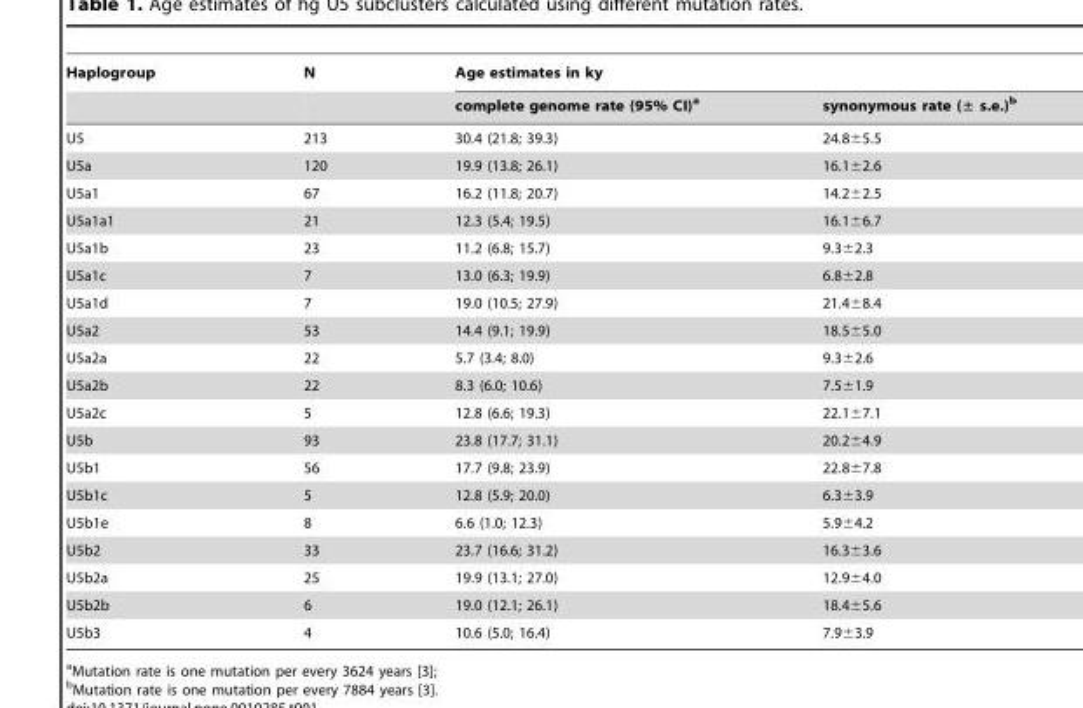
<table><thead><tr><td rowspan="2">Haplogroup</td><td rowspan="2">N</td><td colspan="2">Age estimates in ky</td></tr><tr><td>complete genome rate (95% CI)<sup>a</sup></td><td>synonymous rate (± s.e.)<sup>b</sup></td></tr></thead><tbody><tr><td>U5</td><td>213</td><td>30.4 (21.8; 39.3)</td><td>24.8±5.5</td></tr><tr><td>U5a</td><td>120</td><td>19.9 (13.8; 26.1)</td><td>16.1±2.6</td></tr><tr><td>U5a1</td><td>67</td><td>16.2 (11.8; 20.7)</td><td>14.2±2.5</td></tr><tr><td>U5a1a1</td><td>21</td><td>12.3 (5.4; 19.5)</td><td>16.1±6.7</td></tr><tr><td>U5a1b</td><td>23</td><td>11.2 (6.8; 15.7)</td><td>9.3±2.3</td></tr><tr><td>U5a1c</td><td>7</td><td>13.0 (6.3; 19.9)</td><td>6.8±2.8</td></tr><tr><td>U5a1d</td><td>7</td><td>19.0 (10.5; 27.9)</td><td>21.4±8.4</td></tr><tr><td>U5a2</td><td>53</td><td>14.4 (9.1; 19.9)</td><td>18.5±5.0</td></tr><tr><td>U5a2a</td><td>22</td><td>5.7 (3.4; 8.0)</td><td>9.3±2.6</td></tr><tr><td>U5a2b</td><td>22</td><td>8.3 (6.0; 10.6)</td><td>7.5±1.9</td></tr><tr><td>U5a2c</td><td>5</td><td>12.8 (6.6; 19.3)</td><td>22.1±7.1</td></tr><tr><td>U5b</td><td>93</td><td>23.8 (17.7; 31.1)</td><td>20.2±4.9</td></tr><tr><td>U5b1</td><td>56</td><td>17.7 (9.8; 23.9)</td><td>22.8±7.8</td></tr><tr><td>U5b1c</td><td>5</td><td>12.8 (5.9; 20.0)</td><td>6.3±3.9</td></tr><tr><td>U5b1e</td><td>8</td><td>6.6 (1.0; 12.3)</td><td>5.9±4.2</td></tr><tr><td>U5b2</td><td>33</td><td>23.7 (16.6; 31.2)</td><td>16.3±3.6</td></tr><tr><td>U5b2a</td><td>25</td><td>19.9 (13.1; 27.0)</td><td>12.9±4.0</td></tr><tr><td>U5b2b</td><td>6</td><td>19.0 (12.1; 26.1)</td><td>18.4±5.6</td></tr><tr><td>U5b3</td><td>4</td><td>10.6 (5.0; 16.4)</td><td>7.9±3.9</td></tr></tbody></table>